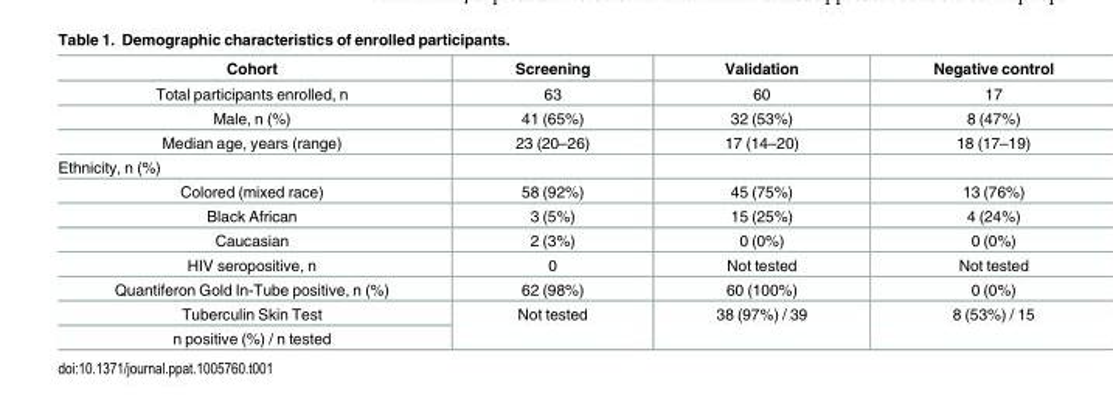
<table><thead><tr><td>Cohort</td><td>Screening</td><td>Validation</td><td>Negative control</td></tr></thead><tbody><tr><td>Total participants enrolled, n</td><td>63</td><td>60</td><td>17</td></tr><tr><td>Male, n (%)</td><td>41 (65%)</td><td>32 (53%)</td><td>8 (47%)</td></tr><tr><td>Median age, years (range)</td><td>23 (20–26)</td><td>17 (14–20)</td><td>18 (17–19)</td></tr><tr><td colspan="4">Ethnicity, n (%)</td></tr><tr><td>Colored (mixed race)</td><td>58 (92%)</td><td>45 (75%)</td><td>13 (76%)</td></tr><tr><td>Black African</td><td>3 (5%)</td><td>15 (25%)</td><td>4 (24%)</td></tr><tr><td>Caucasian</td><td>2 (3%)</td><td>0 (0%)</td><td>0 (0%)</td></tr><tr><td>HIV seropositive, n</td><td>0</td><td>Not tested</td><td>Not tested</td></tr><tr><td>Quantiferon Gold In-Tube positive, n (%)</td><td>62 (98%)</td><td>60 (100%)</td><td>0 (0%)</td></tr><tr><td>Tuberculin Skin Test</td><td rowspan="2">Not tested</td><td rowspan="2">38 (97%) / 39</td><td rowspan="2">8 (53%) / 15</td></tr><tr><td>n positive (%) / n tested</td></tr></tbody></table>